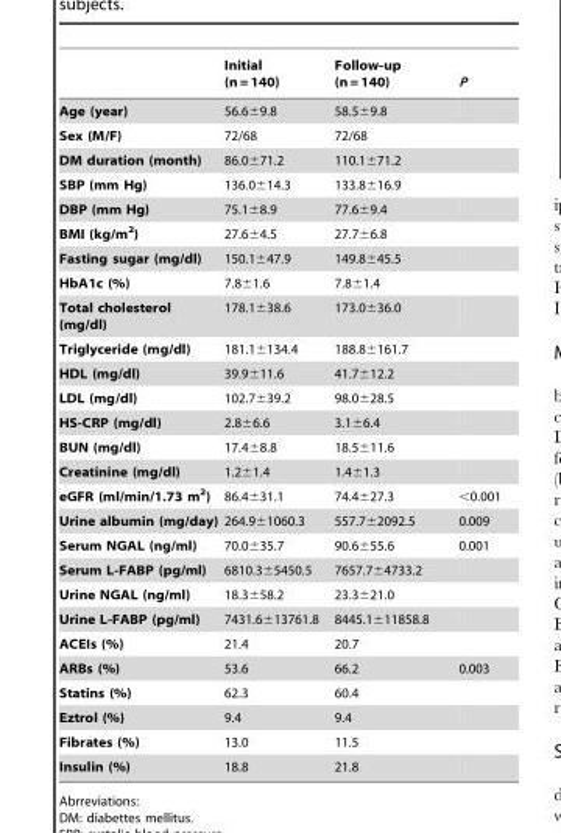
<table><thead><tr><td></td><td>Initial (n = 140)</td><td>Follow-up (n = 140)</td><td>P</td></tr></thead><tbody><tr><td>Age (year)</td><td>56.6±9.8</td><td>58.5±9.8</td><td></td></tr><tr><td>Sex (M/F)</td><td>72/68</td><td>72/68</td><td></td></tr><tr><td>DM duration (month)</td><td>86.0±71.2</td><td colspan="2">110.1±71.2</td></tr><tr><td>SBP (mm Hg)</td><td>136.0±14.3</td><td colspan="2">133.8±16.9</td></tr><tr><td>DBP (mm Hg)</td><td>75.1±8.9</td><td>77.6±9.4</td><td></td></tr><tr><td>BMI (kg/m<sup>2</sup>)</td><td>27.6±4.5</td><td>27.7±6.8</td><td></td></tr><tr><td>Fasting sugar (mg/dl)</td><td>150.1±47.9</td><td>149.8±45.5</td><td></td></tr><tr><td>HbA1c (%)</td><td>7.8±1.6</td><td>7.8±1.4</td><td></td></tr><tr><td>Total cholesterol (mg/dl)</td><td>178.1±38.6</td><td>173.0±36.0</td><td></td></tr><tr><td>Triglyceride (mg/dl)</td><td>181.1±134.4</td><td>188.8±161.7</td><td></td></tr><tr><td>HDL (mg/dl)</td><td>39.9±11.6</td><td>41.7±12.2</td><td></td></tr><tr><td>LDL (mg/dl)</td><td>102.7±39.2</td><td>98.0±28.5</td><td></td></tr><tr><td>HS-CRP (mg/dl)</td><td>2.8±6.6</td><td>3.1±6.4</td><td></td></tr><tr><td>BUN (mg/dl)</td><td>17.4±8.8</td><td>18.5±11.6</td><td></td></tr><tr><td>Creatinine (mg/dl)</td><td>1.2±1.4</td><td>1.4±1.3</td><td></td></tr><tr><td>eGFR (ml/min/1.73 m<sup>2</sup>)</td><td>86.4±31.1</td><td>74.4±27.3</td><td>&lt;0.001</td></tr><tr><td>Urine albumin (mg/day)</td><td>264.9±1060.3</td><td>557.7±2092.5</td><td>0.009</td></tr><tr><td>Serum NGAL (ng/ml)</td><td>70.0±35.7</td><td>90.6±55.6</td><td>0.001</td></tr><tr><td>Serum L-FABP (pg/ml)</td><td>6810.3±5450.5</td><td>7657.7±4733.2</td><td></td></tr><tr><td>Urine NGAL (ng/ml)</td><td>18.3±58.2</td><td>23.3±21.0</td><td></td></tr><tr><td>Urine L-FABP (pg/ml)</td><td>7431.6±13761.8</td><td>8445.1±11858.8</td><td></td></tr><tr><td>ACEIs (%)</td><td>21.4</td><td>20.7</td><td></td></tr><tr><td>ARBs (%)</td><td>53.6</td><td>66.2</td><td>0.003</td></tr><tr><td>Statins (%)</td><td>62.3</td><td>60.4</td><td></td></tr><tr><td>Eztrol (%)</td><td>9.4</td><td>9.4</td><td></td></tr><tr><td>Fibrates (%)</td><td>13.0</td><td>11.5</td><td></td></tr><tr><td>Insulin (%)</td><td>18.8</td><td>21.8</td><td></td></tr></tbody></table>